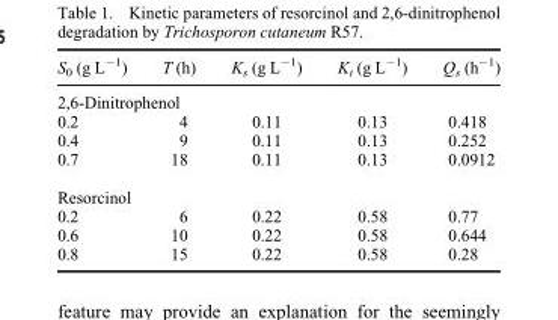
<table><thead><tr><td>S<sub>0</sub> (g L<sup>−1</sup>)</td><td>T (h)</td><td>K<sub>s</sub> (g L<sup>−1</sup>)</td><td>K<sub>i</sub> (g L<sup>−1</sup>)</td><td>Q<sub>s</sub> (h<sup>−1</sup>)</td></tr></thead><tbody><tr><td colspan="5">2,6-Dinitrophenol</td></tr><tr><td>0.2</td><td>4</td><td>0.11</td><td>0.13</td><td>0.418</td></tr><tr><td>0.4</td><td>9</td><td>0.11</td><td>0.13</td><td>0.252</td></tr><tr><td>0.7</td><td>18</td><td>0.11</td><td>0.13</td><td>0.0912</td></tr><tr><td colspan="5">Resorcinol</td></tr><tr><td>0.2</td><td>6</td><td>0.22</td><td>0.58</td><td>0.77</td></tr><tr><td>0.6</td><td>10</td><td>0.22</td><td>0.58</td><td>0.644</td></tr><tr><td>0.8</td><td>15</td><td>0.22</td><td>0.58</td><td>0.28</td></tr></tbody></table>